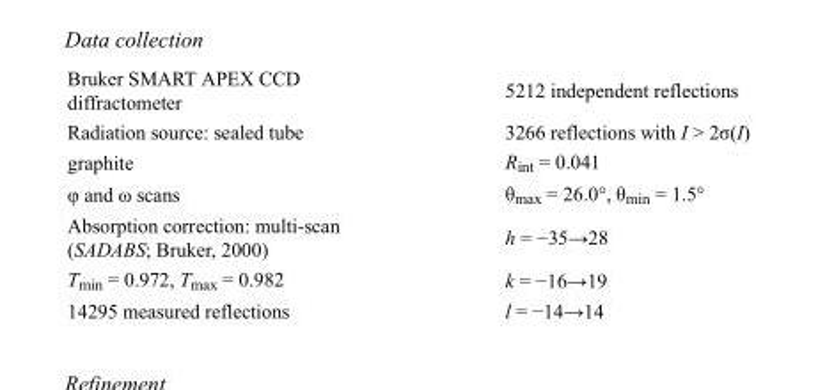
<table><tbody><tr><td>Bruker SMART APEX CCD diffractometer</td><td>5212 independent reflections</td></tr><tr><td>Radiation source: sealed tube</td><td>3266 reflections with I &gt; 2σ(I)</td></tr><tr><td>graphite</td><td>R<sub>int</sub> = 0.041</td></tr><tr><td>φ and ω scans</td><td>θ<sub>max</sub> = 26.0°, θ<sub>min</sub> = 1.5°</td></tr><tr><td>Absorption correction: multi-scan (SADABS; Bruker, 2000)</td><td>h = −35→28</td></tr><tr><td>T<sub>min</sub> = 0.972, T<sub>max</sub> = 0.982</td><td>k = −16→19</td></tr><tr><td>14295 measured reflections</td><td>l = −14→14</td></tr></tbody></table>